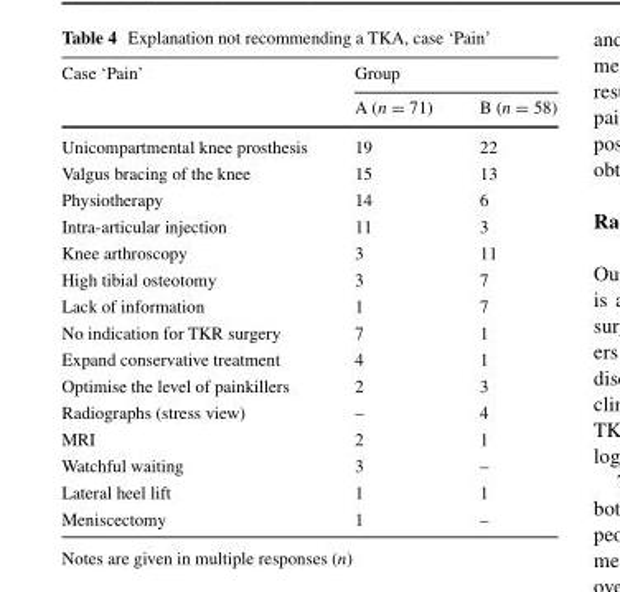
<table><thead><tr><td rowspan="2">Case ‘Pain’</td><td colspan="2">Group</td></tr><tr><td>A (n = 71)</td><td>B (n = 58)</td></tr></thead><tbody><tr><td>Unicompartmental knee prosthesis</td><td>19</td><td>22</td></tr><tr><td>Valgus bracing of the knee</td><td>15</td><td>13</td></tr><tr><td>Physiotherapy</td><td>14</td><td>6</td></tr><tr><td>Intra-articular injection</td><td>11</td><td>3</td></tr><tr><td>Knee arthroscopy</td><td>3</td><td>11</td></tr><tr><td>High tibial osteotomy</td><td>3</td><td>7</td></tr><tr><td>Lack of information</td><td>1</td><td>7</td></tr><tr><td>No indication for TKR surgery</td><td>7</td><td>1</td></tr><tr><td>Expand conservative treatment</td><td>4</td><td>1</td></tr><tr><td>Optimise the level of painkillers</td><td>2</td><td>3</td></tr><tr><td>Radiographs (stress view)</td><td>–</td><td>4</td></tr><tr><td>MRI</td><td>2</td><td>1</td></tr><tr><td>Watchful waiting</td><td>3</td><td>–</td></tr><tr><td>Lateral heel lift</td><td>1</td><td>1</td></tr><tr><td>Meniscectomy</td><td>1</td><td>–</td></tr></tbody></table>